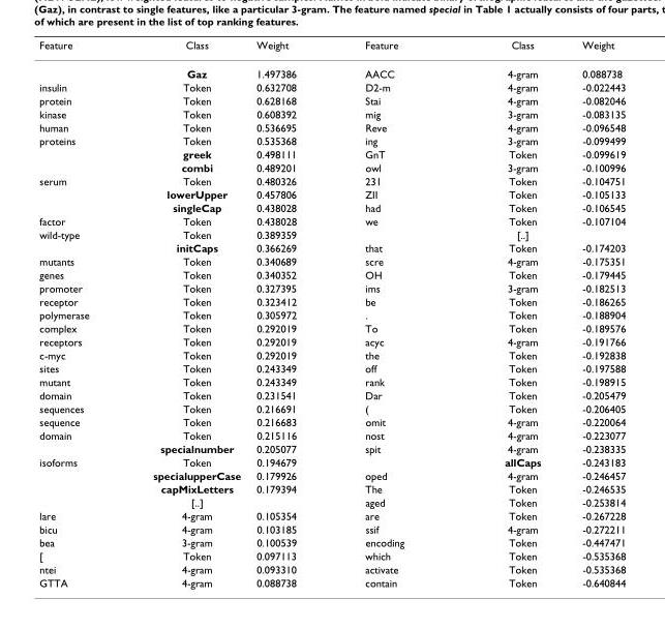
<table><thead><tr><td>Feature</td><td>Class</td><td>Weight</td><td>Feature</td><td>Class</td><td>Weight</td></tr></thead><tbody><tr><td></td><td>Gaz</td><td>1.497386</td><td>AACC</td><td>4-gram</td><td>0.088738</td></tr><tr><td>insulin</td><td>Token</td><td>0.632708</td><td>D2-m</td><td>4-gram</td><td>-0.022443</td></tr><tr><td>protein</td><td>Token</td><td>0.628168</td><td>Stai</td><td>4-gram</td><td>-0.082046</td></tr><tr><td>kinase</td><td>Token</td><td>0.608392</td><td>mig</td><td>3-gram</td><td>-0.083135</td></tr><tr><td>human</td><td>Token</td><td>0.536695</td><td>Reve</td><td>4-gram</td><td>-0.096548</td></tr><tr><td rowspan="3">proteins</td><td>Token</td><td>0.535368</td><td>ing</td><td>3-gram</td><td>-0.099499</td></tr><tr><td>greek</td><td>0.498111</td><td>GnT</td><td>Token</td><td>-0.099619</td></tr><tr><td>combi</td><td>0.489201</td><td>owl</td><td>3-gram</td><td>-0.100996</td></tr><tr><td rowspan="3">serum</td><td>Token</td><td>0.480326</td><td>231</td><td>Token</td><td>-0.104751</td></tr><tr><td>lowerUpper</td><td>0.457806</td><td>ZII</td><td>Token</td><td>-0.105133</td></tr><tr><td>singleCap</td><td>0.438028</td><td>had</td><td>Token</td><td>-0.106545</td></tr><tr><td>factor</td><td>Token</td><td>0.438028</td><td>we</td><td>Token</td><td>-0.107104</td></tr><tr><td rowspan="2">wild-type</td><td>Token</td><td>0.389359</td><td></td><td>[..]</td><td></td></tr><tr><td>initCaps</td><td>0.366269</td><td>that</td><td>Token</td><td>-0.174203</td></tr><tr><td>mutants</td><td>Token</td><td>0.340689</td><td>scre</td><td>4-gram</td><td>-0.175351</td></tr><tr><td>genes</td><td>Token</td><td>0.340352</td><td>OH</td><td>Token</td><td>-0.179445</td></tr><tr><td>promoter</td><td>Token</td><td>0.327395</td><td>ims</td><td>3-gram</td><td>-0.182513</td></tr><tr><td>receptor</td><td>Token</td><td>0.323412</td><td>be</td><td>Token</td><td>-0.186265</td></tr><tr><td>polymerase</td><td>Token</td><td>0.305972</td><td>.</td><td>Token</td><td>-0.188904</td></tr><tr><td>complex</td><td>Token</td><td>0.292019</td><td>To</td><td>Token</td><td>-0.189576</td></tr><tr><td>receptors</td><td>Token</td><td>0.292019</td><td>acyc</td><td>4-gram</td><td>-0.191766</td></tr><tr><td>c-myc</td><td>Token</td><td>0.292019</td><td>the</td><td>Token</td><td>-0.192838</td></tr><tr><td>sites</td><td>Token</td><td>0.243349</td><td>off</td><td>Token</td><td>-0.197588</td></tr><tr><td>mutant</td><td>Token</td><td>0.243349</td><td>rank</td><td>Token</td><td>-0.198915</td></tr><tr><td>domain</td><td>Token</td><td>0.231541</td><td>Dar</td><td>Token</td><td>-0.205479</td></tr><tr><td>sequences</td><td>Token</td><td>0.216691</td><td>(</td><td>Token</td><td>-0.206405</td></tr><tr><td>sequence</td><td>Token</td><td>0.216683</td><td>omit</td><td>4-gram</td><td>-0.220064</td></tr><tr><td rowspan="2">domain</td><td>Token</td><td>0.215116</td><td>nost</td><td>4-gram</td><td>-0.223077</td></tr><tr><td>specialnumber</td><td>0.205077</td><td>spit</td><td>4-gram</td><td>-0.238335</td></tr><tr><td rowspan="4">isoforms</td><td>Token</td><td>0.194679</td><td></td><td>allCaps</td><td>-0.243183</td></tr><tr><td>specialupperCase</td><td>0.179926</td><td>oped</td><td>4-gram</td><td>-0.246457</td></tr><tr><td>capMixLetters</td><td>0.179394</td><td>The</td><td>Token</td><td>-0.246535</td></tr><tr><td>[..]</td><td></td><td>aged</td><td>Token</td><td>-0.253814</td></tr><tr><td>lare</td><td>4-gram</td><td>0.105354</td><td>are</td><td>Token</td><td>-0.267228</td></tr><tr><td>bicu</td><td>4-gram</td><td>0.103185</td><td>ssif</td><td>4-gram</td><td>-0.272211</td></tr><tr><td>bea</td><td>3-gram</td><td>0.100539</td><td>encoding</td><td>Token</td><td>-0.447471</td></tr><tr><td>[</td><td>Token</td><td>0.097113</td><td>which</td><td>Token</td><td>-0.535368</td></tr><tr><td>ntei</td><td>4-gram</td><td>0.093310</td><td>activate</td><td>Token</td><td>-0.535368</td></tr><tr><td>GTTA</td><td>4-gram</td><td>0.088738</td><td>contain</td><td>Token</td><td>-0.640844</td></tr></tbody></table>